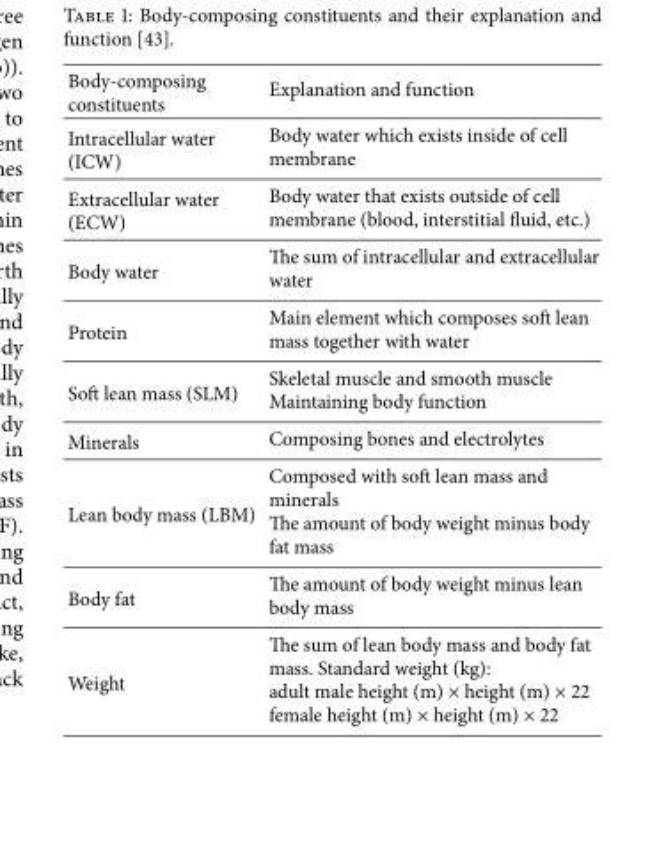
<table><thead><tr><td>Body-composing constituents</td><td>Explanation and function</td></tr></thead><tbody><tr><td>Intracellular water (ICW)</td><td>Body water which exists inside of cell membrane</td></tr><tr><td>Extracellular water (ECW)</td><td>Body water that exists outside of cell membrane (blood, interstitial fluid, etc.)</td></tr><tr><td>Body water</td><td>The sum of intracellular and extracellular water</td></tr><tr><td>Protein</td><td>Main element which composes soft lean mass together with water</td></tr><tr><td>Soft lean mass (SLM)</td><td>Skeletal muscle and smooth muscle Maintaining body function</td></tr><tr><td>Minerals</td><td>Composing bones and electrolytes</td></tr><tr><td>Lean body mass (LBM)</td><td>Composed with soft lean mass and minerals The amount of body weight minus body fat mass</td></tr><tr><td>Body fat</td><td>The amount of body weight minus lean body mass</td></tr><tr><td>Weight</td><td>The sum of lean body mass and body fat mass. Standard weight (kg): adult male height (m) × height (m) × 22 female height (m) × height (m) × 22</td></tr></tbody></table>